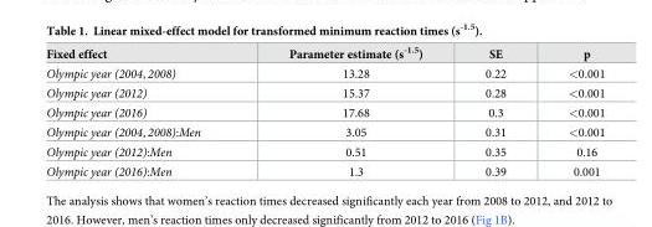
<table><thead><tr><td>Fixed effect</td><td>Parameter estimate (s<sup>-1.5</sup>)</td><td>SE</td><td>p</td></tr></thead><tbody><tr><td>Olympic year (2004, 2008)</td><td>13.28</td><td>0.22</td><td>&lt;0.001</td></tr><tr><td>Olympic year (2012)</td><td>15.37</td><td>0.28</td><td>&lt;0.001</td></tr><tr><td>Olympic year (2016)</td><td>17.68</td><td>0.3</td><td>&lt;0.001</td></tr><tr><td>Olympic year (2004, 2008):Men</td><td>3.05</td><td>0.31</td><td>&lt;0.001</td></tr><tr><td>Olympic year (2012):Men</td><td>0.51</td><td>0.35</td><td>0.16</td></tr><tr><td>Olympic year (2016):Men</td><td>1.3</td><td>0.39</td><td>0.001</td></tr></tbody></table>